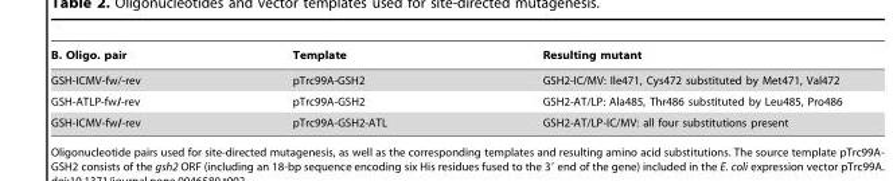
<table><thead><tr><td>B. Oligo. pair</td><td>Template</td><td>Resulting mutant</td></tr></thead><tbody><tr><td>GSH-ICMV-fw/-rev</td><td>pTrc99A-GSH2</td><td>GSH2-IC/MV: Ile471, Cys472 substituted by Met471, Val472</td></tr><tr><td>GSH-ATLP-fw/-rev</td><td>pTrc99A-GSH2</td><td>GSH2-AT/LP: Ala485, Thr486 substituted by Leu485, Pro486</td></tr><tr><td>GSH-ICMV-fw/-rev</td><td>pTrc99A-GSH2-ATL</td><td>GSH2-AT/LP-IC/MV: all four substitutions present</td></tr></tbody></table>